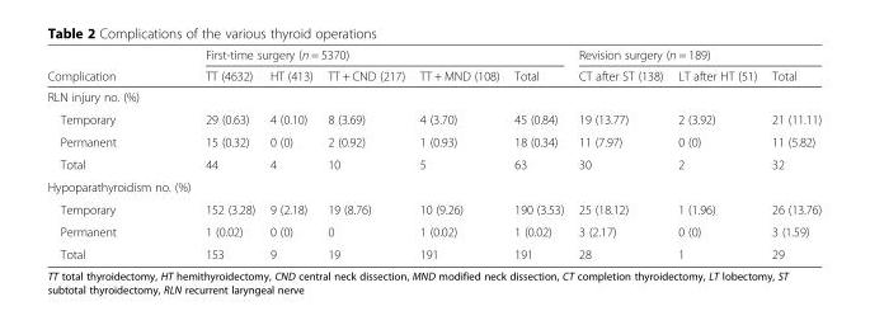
<table><thead><tr><td rowspan="2">Complication</td><td colspan="5">First-time surgery (n = 5370)</td><td colspan="3">Revision surgery (n = 189)</td></tr><tr><td>TT (4632)</td><td>HT (413)</td><td>TT + CND (217)</td><td>TT + MND (108)</td><td>Total</td><td>CT after ST (138)</td><td>LT after HT (51)</td><td>Total</td></tr></thead><tbody><tr><td colspan="9">RLN injury no. (%)</td></tr><tr><td>Temporary</td><td>29 (0.63)</td><td>4 (0.10)</td><td>8 (3.69)</td><td>4 (3.70)</td><td>45 (0.84)</td><td>19 (13.77)</td><td>2 (3.92)</td><td>21 (11.11)</td></tr><tr><td>Permanent</td><td>15 (0.32)</td><td>0 (0)</td><td>2 (0.92)</td><td>1 (0.93)</td><td>18 (0.34)</td><td>11 (7.97)</td><td>0 (0)</td><td>11 (5.82)</td></tr><tr><td>Total</td><td>44</td><td>4</td><td>10</td><td>5</td><td>63</td><td>30</td><td>2</td><td>32</td></tr><tr><td colspan="9">Hypoparathyroidism no. (%)</td></tr><tr><td>Temporary</td><td>152 (3.28)</td><td>9 (2.18)</td><td>19 (8.76)</td><td>10 (9.26)</td><td>190 (3.53)</td><td>25 (18.12)</td><td>1 (1.96)</td><td>26 (13.76)</td></tr><tr><td>Permanent</td><td>1 (0.02)</td><td>0 (0)</td><td>0</td><td>1 (0.02)</td><td>1 (0.02)</td><td>3 (2.17)</td><td>0 (0)</td><td>3 (1.59)</td></tr><tr><td>Total</td><td>153</td><td>9</td><td>19</td><td>191</td><td>191</td><td>28</td><td>1</td><td>29</td></tr></tbody></table>